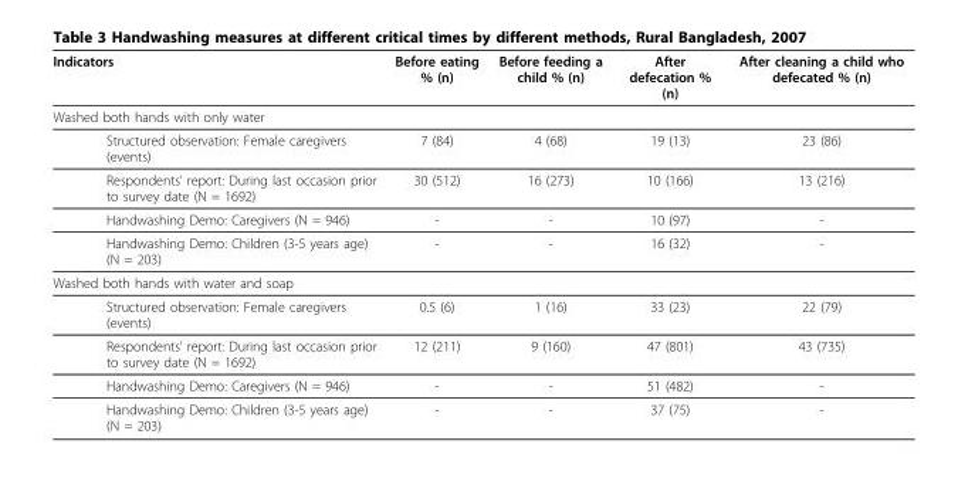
<table><thead><tr><td>Indicators</td><td>Before eating % (n)</td><td>Before feeding a child % (n)</td><td>After defecation % (n)</td><td>After cleaning a child who defecated % (n)</td></tr></thead><tbody><tr><td colspan="5">Washed both hands with only water</td></tr><tr><td>Structured observation: Female caregivers (events)</td><td>7 (84)</td><td>4 (68)</td><td>19 (13)</td><td>23 (86)</td></tr><tr><td>Respondents’ report: During last occasion prior to survey date (N = 1692)</td><td>30 (512)</td><td>16 (273)</td><td>10 (166)</td><td>13 (216)</td></tr><tr><td>Handwashing Demo: Caregivers (N = 946)</td><td>-</td><td>-</td><td>10 (97)</td><td>-</td></tr><tr><td>Handwashing Demo: Children (3-5 years age) (N = 203)</td><td>-</td><td>-</td><td>16 (32)</td><td>-</td></tr><tr><td colspan="5">Washed both hands with water and soap</td></tr><tr><td>Structured observation: Female caregivers (events)</td><td>0.5 (6)</td><td>1 (16)</td><td>33 (23)</td><td>22 (79)</td></tr><tr><td>Respondents’ report: During last occasion prior to survey date (N = 1692)</td><td>12 (211)</td><td>9 (160)</td><td>47 (801)</td><td>43 (735)</td></tr><tr><td>Handwashing Demo: Caregivers (N = 946)</td><td>-</td><td>-</td><td>51 (482)</td><td>-</td></tr><tr><td>Handwashing Demo: Children (3-5 years age) (N = 203)</td><td>-</td><td>-</td><td>37 (75)</td><td>-</td></tr></tbody></table>